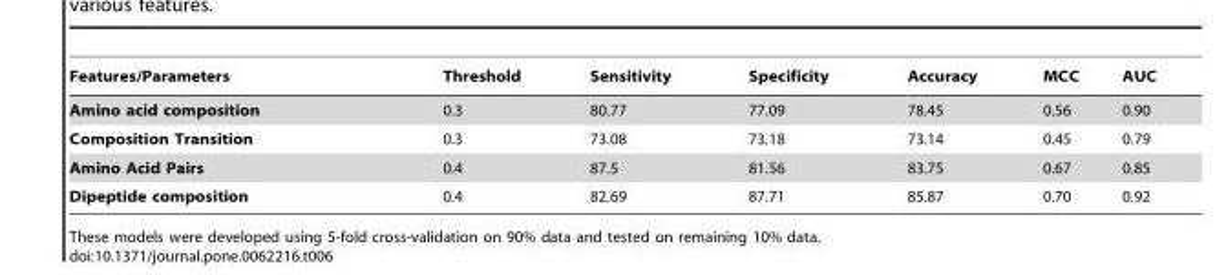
<table><thead><tr><td>Features/Parameters</td><td>Threshold</td><td>Sensitivity</td><td>Specificity</td><td>Accuracy</td><td>MCC</td><td>AUC</td></tr></thead><tbody><tr><td>Amino acid composition</td><td>0.3</td><td>80.77</td><td>77.09</td><td>78.45</td><td>0.56</td><td>0.90</td></tr><tr><td>Composition Transition</td><td>0.3</td><td>73.08</td><td>73.18</td><td>73.14</td><td>0.45</td><td>0.79</td></tr><tr><td>Amino Acid Pairs</td><td>0.4</td><td>87.5</td><td>81.56</td><td>83.75</td><td>0.67</td><td>0.85</td></tr><tr><td>Dipeptide composition</td><td>0.4</td><td>82.69</td><td>87.71</td><td>85.87</td><td>0.70</td><td>0.92</td></tr></tbody></table>